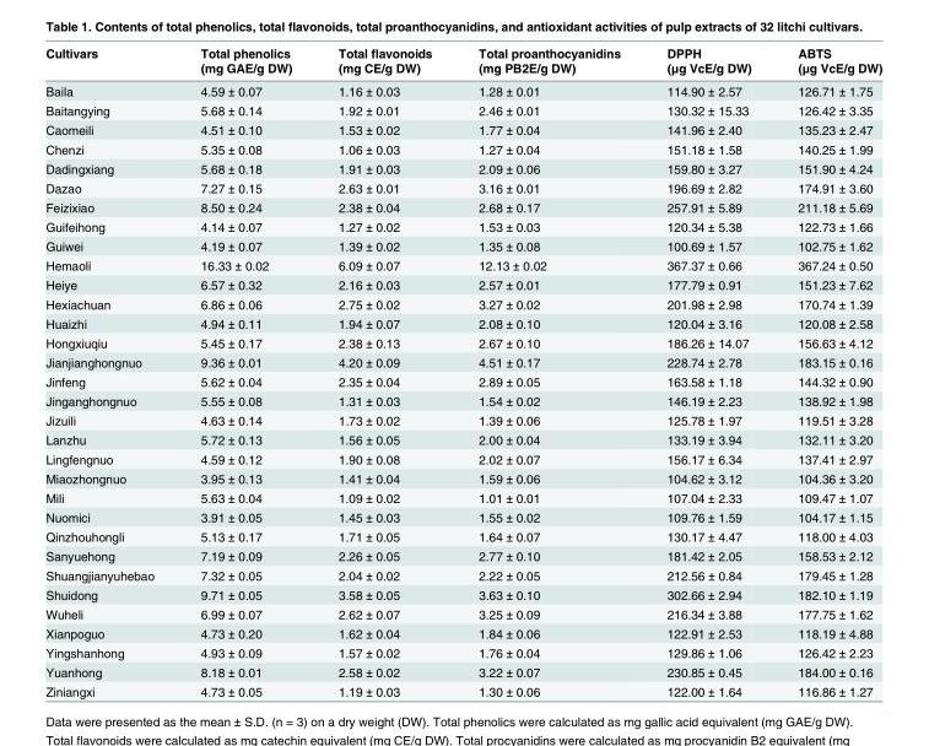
<table><thead><tr><td rowspan="2">Cultivars</td><td rowspan="2">Total phenolics (mg GAE/g DW)</td><td rowspan="2">Total flavonoids (mg CE/g DW)</td><td rowspan="2">Total proanthocyanidins (mg PB2E/g DW)</td><td rowspan="2">DPPH (μg VcE/g DW)</td><td rowspan="2">ABTS (μg VcE/g DW)</td></tr><tr></tr></thead><tbody><tr><td>Baila</td><td>4.59 ± 0.07</td><td>1.16 ± 0.03</td><td>1.28 ± 0.01</td><td>114.90 ± 2.57</td><td>126.71 ± 1.75</td></tr><tr><td>Baitangying</td><td>5.68 ± 0.14</td><td>1.92 ± 0.01</td><td>2.46 ± 0.01</td><td>130.32 ± 15.33</td><td>126.42 ± 3.35</td></tr><tr><td>Caomeili</td><td>4.51 ± 0.10</td><td>1.53 ± 0.02</td><td>1.77 ± 0.04</td><td>141.96 ± 2.40</td><td>135.23 ± 2.47</td></tr><tr><td>Chenzi</td><td>5.35 ± 0.08</td><td>1.06 ± 0.03</td><td>1.27 ± 0.04</td><td>151.18 ± 1.58</td><td>140.25 ± 1.99</td></tr><tr><td>Dadingxiang</td><td>5.68 ± 0.18</td><td>1.91 ± 0.03</td><td>2.09 ± 0.06</td><td>159.80 ± 3.27</td><td>151.90 ± 4.24</td></tr><tr><td>Dazao</td><td>7.27 ± 0.15</td><td>2.63 ± 0.01</td><td>3.16 ± 0.01</td><td>196.69 ± 2.82</td><td>174.91 ± 3.60</td></tr><tr><td>Feizixiao</td><td>8.50 ± 0.24</td><td>2.38 ± 0.04</td><td>2.68 ± 0.17</td><td>257.91 ± 5.89</td><td>211.18 ± 5.69</td></tr><tr><td>Guifeihong</td><td>4.14 ± 0.07</td><td>1.27 ± 0.02</td><td>1.53 ± 0.03</td><td>120.34 ± 5.38</td><td>122.73 ± 1.66</td></tr><tr><td>Guiwei</td><td>4.19 ± 0.07</td><td>1.39 ± 0.02</td><td>1.35 ± 0.08</td><td>100.69 ± 1.57</td><td>102.75 ± 1.62</td></tr><tr><td>Hemaoli</td><td>16.33 ± 0.02</td><td>6.09 ± 0.07</td><td>12.13 ± 0.02</td><td>367.37 ± 0.66</td><td>367.24 ± 0.50</td></tr><tr><td>Heiye</td><td>6.57 ± 0.32</td><td>2.16 ± 0.03</td><td>2.57 ± 0.01</td><td>177.79 ± 0.91</td><td>151.23 ± 7.62</td></tr><tr><td>Hexiachuan</td><td>6.86 ± 0.06</td><td>2.75 ± 0.02</td><td>3.27 ± 0.02</td><td>201.98 ± 2.98</td><td>170.74 ± 1.39</td></tr><tr><td>Huaizhi</td><td>4.94 ± 0.11</td><td>1.94 ± 0.07</td><td>2.08 ± 0.10</td><td>120.04 ± 3.16</td><td>120.08 ± 2.58</td></tr><tr><td>Hongxiuqiu</td><td>5.45 ± 0.17</td><td>2.38 ± 0.13</td><td>2.67 ± 0.10</td><td>186.26 ± 14.07</td><td>156.63 ± 4.12</td></tr><tr><td>Jianjianghongnuo</td><td>9.36 ± 0.01</td><td>4.20 ± 0.09</td><td>4.51 ± 0.17</td><td>228.74 ± 2.78</td><td>183.15 ± 0.16</td></tr><tr><td>Jinfeng</td><td>5.62 ± 0.04</td><td>2.35 ± 0.04</td><td>2.89 ± 0.05</td><td>163.58 ± 1.18</td><td>144.32 ± 0.90</td></tr><tr><td>Jinganghongnuo</td><td>5.55 ± 0.08</td><td>1.31 ± 0.03</td><td>1.54 ± 0.02</td><td>146.19 ± 2.23</td><td>138.92 ± 1.98</td></tr><tr><td>Jizuili</td><td>4.63 ± 0.14</td><td>1.73 ± 0.02</td><td>1.39 ± 0.06</td><td>125.78 ± 1.97</td><td>119.51 ± 3.28</td></tr><tr><td>Lanzhu</td><td>5.72 ± 0.13</td><td>1.56 ± 0.05</td><td>2.00 ± 0.04</td><td>133.19 ± 3.94</td><td>132.11 ± 3.20</td></tr><tr><td>Lingfengnuo</td><td>4.59 ± 0.12</td><td>1.90 ± 0.08</td><td>2.02 ± 0.07</td><td>156.17 ± 6.34</td><td>137.41 ± 2.97</td></tr><tr><td>Miaozhongnuo</td><td>3.95 ± 0.13</td><td>1.41 ± 0.04</td><td>1.59 ± 0.06</td><td>104.62 ± 3.12</td><td>104.36 ± 3.20</td></tr><tr><td>Mili</td><td>5.63 ± 0.04</td><td>1.09 ± 0.02</td><td>1.01 ± 0.01</td><td>107.04 ± 2.33</td><td>109.47 ± 1.07</td></tr><tr><td>Nuomici</td><td>3.91 ± 0.05</td><td>1.45 ± 0.03</td><td>1.55 ± 0.02</td><td>109.76 ± 1.59</td><td>104.17 ± 1.15</td></tr><tr><td>Qinzhouhongli</td><td>5.13 ± 0.17</td><td>1.71 ± 0.05</td><td>1.64 ± 0.07</td><td>130.17 ± 4.47</td><td>118.00 ± 4.03</td></tr><tr><td>Sanyuehong</td><td>7.19 ± 0.09</td><td>2.26 ± 0.05</td><td>2.77 ± 0.10</td><td>181.42 ± 2.05</td><td>158.53 ± 2.12</td></tr><tr><td>Shuangjianyuhebao</td><td>7.32 ± 0.05</td><td>2.04 ± 0.02</td><td>2.22 ± 0.05</td><td>212.56 ± 0.84</td><td>179.45 ± 1.28</td></tr><tr><td>Shuidong</td><td>9.71 ± 0.05</td><td>3.58 ± 0.05</td><td>3.63 ± 0.10</td><td>302.66 ± 2.94</td><td>182.10 ± 1.19</td></tr><tr><td>Wuheli</td><td>6.99 ± 0.07</td><td>2.62 ± 0.07</td><td>3.25 ± 0.09</td><td>216.34 ± 3.88</td><td>177.75 ± 1.62</td></tr><tr><td>Xianpoguo</td><td>4.73 ± 0.20</td><td>1.62 ± 0.04</td><td>1.84 ± 0.06</td><td>122.91 ± 2.53</td><td>118.19 ± 4.88</td></tr><tr><td>Yingshanhong</td><td>4.93 ± 0.09</td><td>1.57 ± 0.02</td><td>1.76 ± 0.04</td><td>129.86 ± 1.06</td><td>126.42 ± 2.23</td></tr><tr><td>Yuanhong</td><td>8.18 ± 0.01</td><td>2.58 ± 0.02</td><td>3.22 ± 0.07</td><td>230.85 ± 0.45</td><td>184.00 ± 0.16</td></tr><tr><td>Ziniangxi</td><td>4.73 ± 0.05</td><td>1.19 ± 0.03</td><td>1.30 ± 0.06</td><td>122.00 ± 1.64</td><td>116.86 ± 1.27</td></tr></tbody></table>